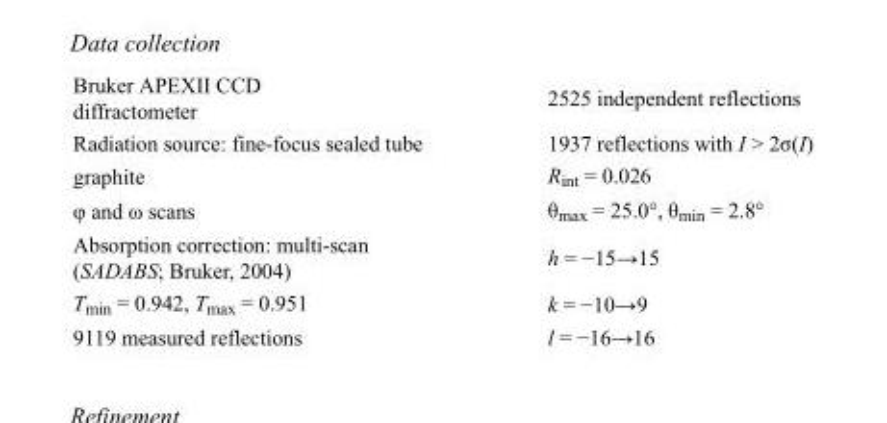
<table><tbody><tr><td>Bruker APEXII CCD diffractometer</td><td>2525 independent reflections</td></tr><tr><td>Radiation source: fine-focus sealed tube</td><td>1937 reflections with I &gt; 2σ(I)</td></tr><tr><td>graphite</td><td>R<sub>int</sub> = 0.026</td></tr><tr><td>φ and ω scans</td><td>θ<sub>max</sub> = 25.0°, θ<sub>min</sub> = 2.8°</td></tr><tr><td>Absorption correction: multi-scan (SADABS; Bruker, 2004)</td><td>h = −15→15</td></tr><tr><td>T<sub>min</sub> = 0.942, T<sub>max</sub> = 0.951</td><td>k = −10→9</td></tr><tr><td>9119 measured reflections</td><td>l = −16→16</td></tr></tbody></table>